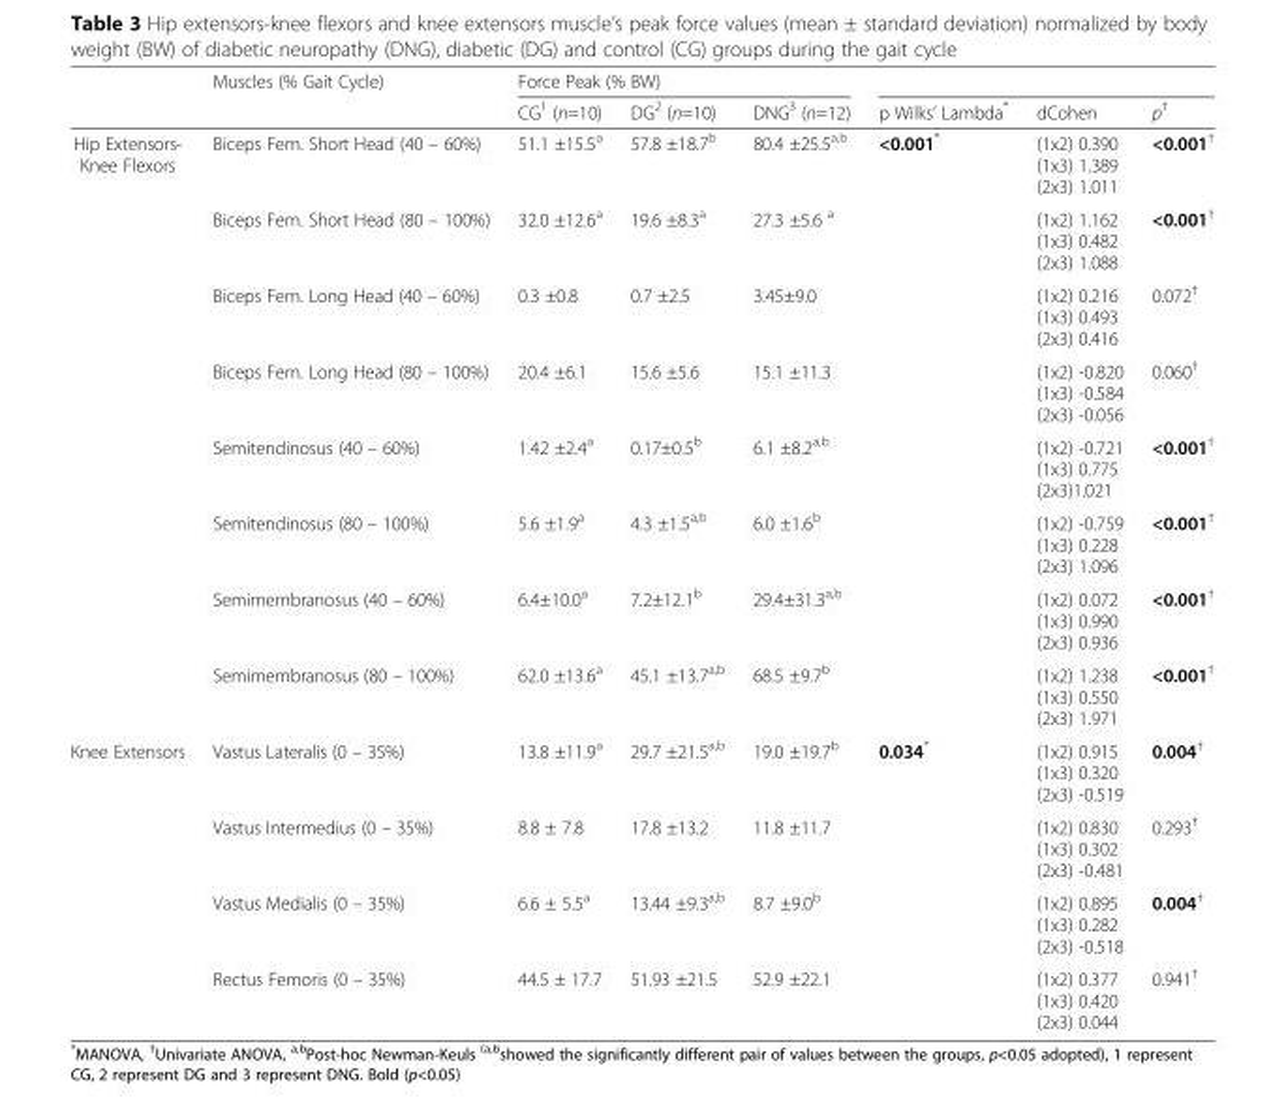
<table><thead><tr><td rowspan="2"></td><td rowspan="2">Muscles (% Gait Cycle)</td><td colspan="3">Force Peak (% BW)</td><td rowspan="2">p Wilks’ Lambda*</td><td rowspan="2">dCohen</td><td rowspan="2">p<sup>†</sup></td></tr><tr><td>CG<sup>1</sup> (n=10)</td><td>DG<sup>2</sup> (n=10)</td><td>DNG<sup>3</sup> (n=12)</td></tr></thead><tbody><tr><td rowspan="8">Hip Extensors- Knee Flexors</td><td>Biceps Fem. Short Head (40 – 60%)</td><td>51.1 ±15.5<sup>a</sup></td><td>57.8 ±18.7<sup>b</sup></td><td>80.4 ±25.5<sup>a,b</sup></td><td rowspan="8">&lt;0.001*</td><td>(1x2) 0.390 (1x3) 1.389 (2x3) 1.011</td><td>&lt;0.001<sup>†</sup></td></tr><tr><td>Biceps Fem. Short Head (80 – 100%)</td><td>32.0 ±12.6<sup>a</sup></td><td>19.6 ±8.3<sup>a</sup></td><td>27.3 ±5.6 <sup>a</sup></td><td>(1x2) 1.162 (1x3) 0.482 (2x3) 1.088</td><td>&lt;0.001<sup>†</sup></td></tr><tr><td>Biceps Fem. Long Head (40 – 60%)</td><td>0.3 ±0.8</td><td>0.7 ±2.5</td><td>3.45±9.0</td><td>(1x2) 0.216 (1x3) 0.493 (2x3) 0.416</td><td>0.072<sup>†</sup></td></tr><tr><td>Biceps Fem. Long Head (80 – 100%)</td><td>20.4 ±6.1</td><td>15.6 ±5.6</td><td>15.1 ±11.3</td><td>(1x2) -0.820 (1x3) -0.584 (2x3) -0.056</td><td>0.060<sup>†</sup></td></tr><tr><td>Semitendinosus (40 – 60%)</td><td>1.42 ±2.4<sup>a</sup></td><td>0.17±0.5<sup>b</sup></td><td>6.1 ±8.2<sup>a,b</sup></td><td>(1x2) -0.721 (1x3) 0.775 (2x3)1.021</td><td>&lt;0.001<sup>†</sup></td></tr><tr><td>Semitendinosus (80 – 100%)</td><td>5.6 ±1.9<sup>a</sup></td><td>4.3 ±1.5<sup>a,b</sup></td><td>6.0 ±1.6<sup>b</sup></td><td>(1x2) -0.759 (1x3) 0.228 (2x3) 1.096</td><td>&lt;0.001<sup>†</sup></td></tr><tr><td>Semimembranosus (40 – 60%)</td><td>6.4±10.0<sup>a</sup></td><td>7.2±12.1<sup>b</sup></td><td>29.4±31.3<sup>a,b</sup></td><td>(1x2) 0.072 (1x3) 0.990 (2x3) 0.936</td><td>&lt;0.001<sup>†</sup></td></tr><tr><td>Semimembranosus (80 – 100%)</td><td>62.0 ±13.6<sup>a</sup></td><td>45.1 ±13.7<sup>a,b</sup></td><td>68.5 ±9.7<sup>b</sup></td><td>(1x2) 1.238 (1x3) 0.550 (2x3) 1.971</td><td>&lt;0.001<sup>†</sup></td></tr><tr><td rowspan="4">Knee Extensors</td><td>Vastus Lateralis (0 – 35%)</td><td>13.8 ±11.9<sup>a</sup></td><td>29.7 ±21.5<sup>a,b</sup></td><td>19.0 ±19.7<sup>b</sup></td><td rowspan="4">0.034*</td><td>(1x2) 0.915 (1x3) 0.320 (2x3) -0.519</td><td>0.004<sup>†</sup></td></tr><tr><td>Vastus Intermedius (0 – 35%)</td><td>8.8 ± 7.8</td><td>17.8 ±13.2</td><td>11.8 ±11.7</td><td>(1x2) 0.830 (1x3) 0.302 (2x3) -0.481</td><td>0.293<sup>†</sup></td></tr><tr><td>Vastus Medialis (0 – 35%)</td><td>6.6 ± 5.5<sup>a</sup></td><td>13.44 ±9.3<sup>a,b</sup></td><td>8.7 ±9.0<sup>b</sup></td><td>(1x2) 0.895 (1x3) 0.282 (2x3) -0.518</td><td>0.004<sup>†</sup></td></tr><tr><td>Rectus Femoris (0 – 35%)</td><td>44.5 ± 17.7</td><td>51.93 ±21.5</td><td>52.9 ±22.1</td><td>(1x2) 0.377 (1x3) 0.420 (2x3) 0.044</td><td>0.941<sup>†</sup></td></tr></tbody></table>